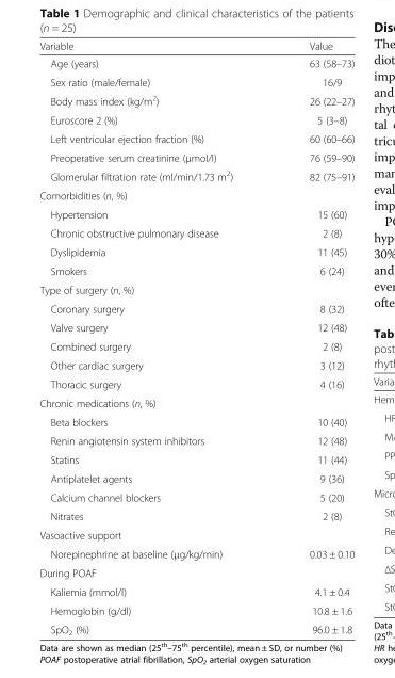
<table><thead><tr><td>Variable</td><td>Value</td></tr></thead><tbody><tr><td>Age (years)</td><td>63 (58–73)</td></tr><tr><td>Sex ratio (male/female)</td><td>16/9</td></tr><tr><td>Body mass index (kg/m<sup>2</sup>)</td><td>26 (22–27)</td></tr><tr><td>Euroscore 2 (%)</td><td>5 (3–8)</td></tr><tr><td>Left ventricular ejection fraction (%)</td><td>60 (60–66)</td></tr><tr><td>Preoperative serum creatinine (μmol/l)</td><td>76 (59–90)</td></tr><tr><td>Glomerular filtration rate (ml/min/1.73 m<sup>2</sup>)</td><td>82 (75–91)</td></tr><tr><td colspan="2">Comorbidities (n, %)</td></tr><tr><td>Hypertension</td><td>15 (60)</td></tr><tr><td>Chronic obstructive pulmonary disease</td><td>2 (8)</td></tr><tr><td>Dyslipidemia</td><td>11 (45)</td></tr><tr><td>Smokers</td><td>6 (24)</td></tr><tr><td colspan="2">Type of surgery (n, %)</td></tr><tr><td>Coronary surgery</td><td>8 (32)</td></tr><tr><td>Valve surgery</td><td>12 (48)</td></tr><tr><td>Combined surgery</td><td>2 (8)</td></tr><tr><td>Other cardiac surgery</td><td>3 (12)</td></tr><tr><td>Thoracic surgery</td><td>4 (16)</td></tr><tr><td colspan="2">Chronic medications (n, %)</td></tr><tr><td>Beta blockers</td><td>10 (40)</td></tr><tr><td>Renin angiotensin system inhibitors</td><td>12 (48)</td></tr><tr><td>Statins</td><td>11 (44)</td></tr><tr><td>Antiplatelet agents</td><td>9 (36)</td></tr><tr><td>Calcium channel blockers</td><td>5 (20)</td></tr><tr><td>Nitrates</td><td>2 (8)</td></tr><tr><td colspan="2">Vasoactive support</td></tr><tr><td>Norepinephrine at baseline (μg/kg/min)</td><td rowspan="2">0.03 ± 0.10</td></tr><tr><td>During POAF</td></tr><tr><td>Kaliemia (mmol/l)</td><td>4.1 ± 0.4</td></tr><tr><td>Hemoglobin (g/dl)</td><td>10.8 ± 1.6</td></tr><tr><td>SpO<sub>2</sub> (%)</td><td>96.0 ± 1.8</td></tr></tbody></table>